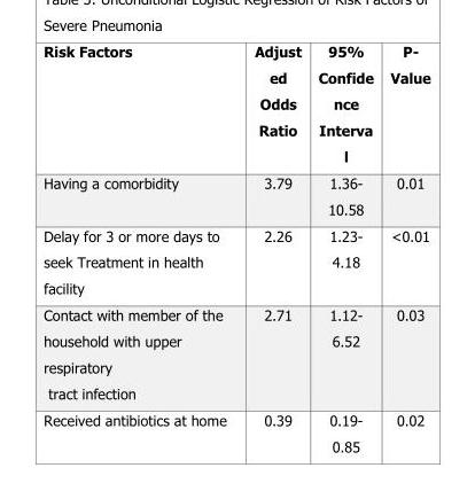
<table><thead><tr><td>Risk Factors</td><td>Adjust ed Odds Ratio</td><td>95% Confide nce Interva l</td><td>P- Value</td></tr></thead><tbody><tr><td>Having a comorbidity</td><td>3.79</td><td>1.36- 10.58</td><td>0.01</td></tr><tr><td>Delay for 3 or more days to seek Treatment in health facility</td><td>2.26</td><td>1.23- 4.18</td><td>&lt;0.01</td></tr><tr><td>Contact with member of the household with upper respiratory tract infection</td><td>2.71</td><td>1.12- 6.52</td><td>0.03</td></tr><tr><td>Received antibiotics at home</td><td>0.39</td><td>0.19- 0.85</td><td>0.02</td></tr></tbody></table>